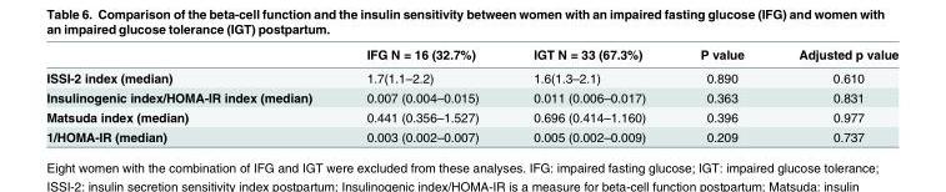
<table><thead><tr><td></td><td>IFG N = 16 (32.7%)</td><td>IGT N = 33 (67.3%)</td><td>P value</td><td>Adjusted p value</td></tr></thead><tbody><tr><td>ISSI-2 index (median)</td><td>1.7(1.1–2.2)</td><td>1.6(1.3–2.1)</td><td>0.890</td><td>0.610</td></tr><tr><td>Insulinogenic index/HOMA-IR index (median)</td><td>0.007 (0.004–0.015)</td><td>0.011 (0.006–0.017)</td><td>0.363</td><td>0.831</td></tr><tr><td>Matsuda index (median)</td><td>0.441 (0.356–1.527)</td><td>0.696 (0.414–1.160)</td><td>0.396</td><td>0.977</td></tr><tr><td>1/HOMA-IR (median)</td><td>0.003 (0.002–0.007)</td><td>0.005 (0.002–0.009)</td><td>0.209</td><td>0.737</td></tr></tbody></table>